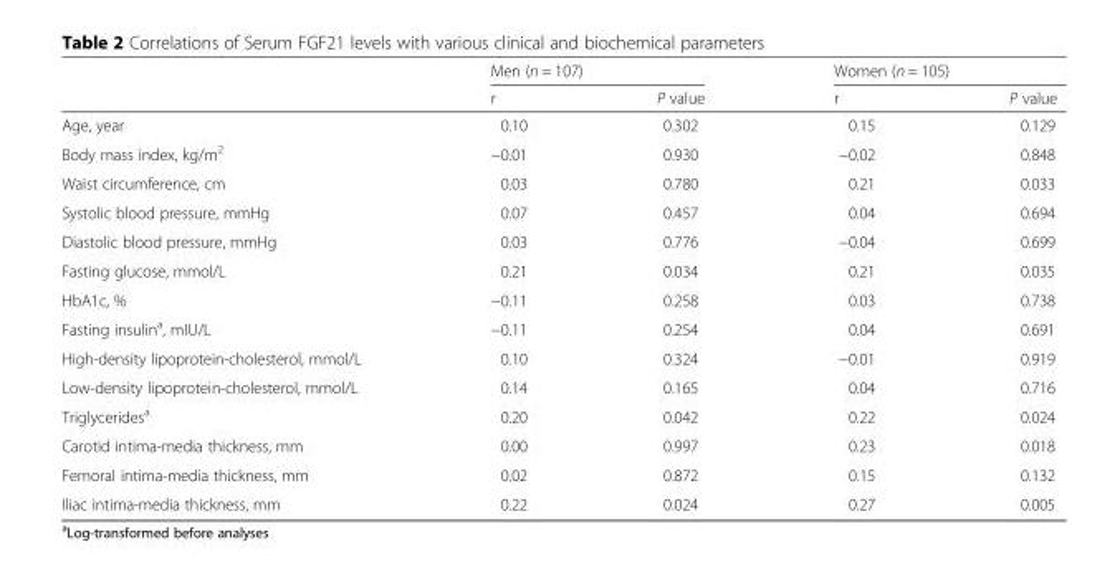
<table><thead><tr><td rowspan="2"></td><td colspan="2">Men (n = 107)</td><td colspan="2">Women (n = 105)</td></tr><tr><td>r</td><td>P value</td><td>r</td><td>P value</td></tr></thead><tbody><tr><td>Age, year</td><td>0.10</td><td>0.302</td><td>0.15</td><td>0.129</td></tr><tr><td>Body mass index, kg/m<sup>2</sup></td><td>−0.01</td><td>0.930</td><td>−0.02</td><td>0.848</td></tr><tr><td>Waist circumference, cm</td><td>0.03</td><td>0.780</td><td>0.21</td><td>0.033</td></tr><tr><td>Systolic blood pressure, mmHg</td><td>0.07</td><td>0.457</td><td>0.04</td><td>0.694</td></tr><tr><td>Diastolic blood pressure, mmHg</td><td>0.03</td><td>0.776</td><td>−0.04</td><td>0.699</td></tr><tr><td>Fasting glucose, mmol/L</td><td>0.21</td><td>0.034</td><td>0.21</td><td>0.035</td></tr><tr><td>HbA1c, %</td><td>−0.11</td><td>0.258</td><td>0.03</td><td>0.738</td></tr><tr><td>Fasting insulin<sup>a</sup>, mIU/L</td><td>−0.11</td><td>0.254</td><td>0.04</td><td>0.691</td></tr><tr><td>High-density lipoprotein-cholesterol, mmol/L</td><td>0.10</td><td>0.324</td><td>−0.01</td><td>0.919</td></tr><tr><td>Low-density lipoprotein-cholesterol, mmol/L</td><td>0.14</td><td>0.165</td><td>0.04</td><td>0.716</td></tr><tr><td>Triglycerides<sup>a</sup></td><td>0.20</td><td>0.042</td><td>0.22</td><td>0.024</td></tr><tr><td>Carotid intima-media thickness, mm</td><td>0.00</td><td>0.997</td><td>0.23</td><td>0.018</td></tr><tr><td>Femoral intima-media thickness, mm</td><td>0.02</td><td>0.872</td><td>0.15</td><td>0.132</td></tr><tr><td>Iliac intima-media thickness, mm</td><td>0.22</td><td>0.024</td><td>0.27</td><td>0.005</td></tr></tbody></table>